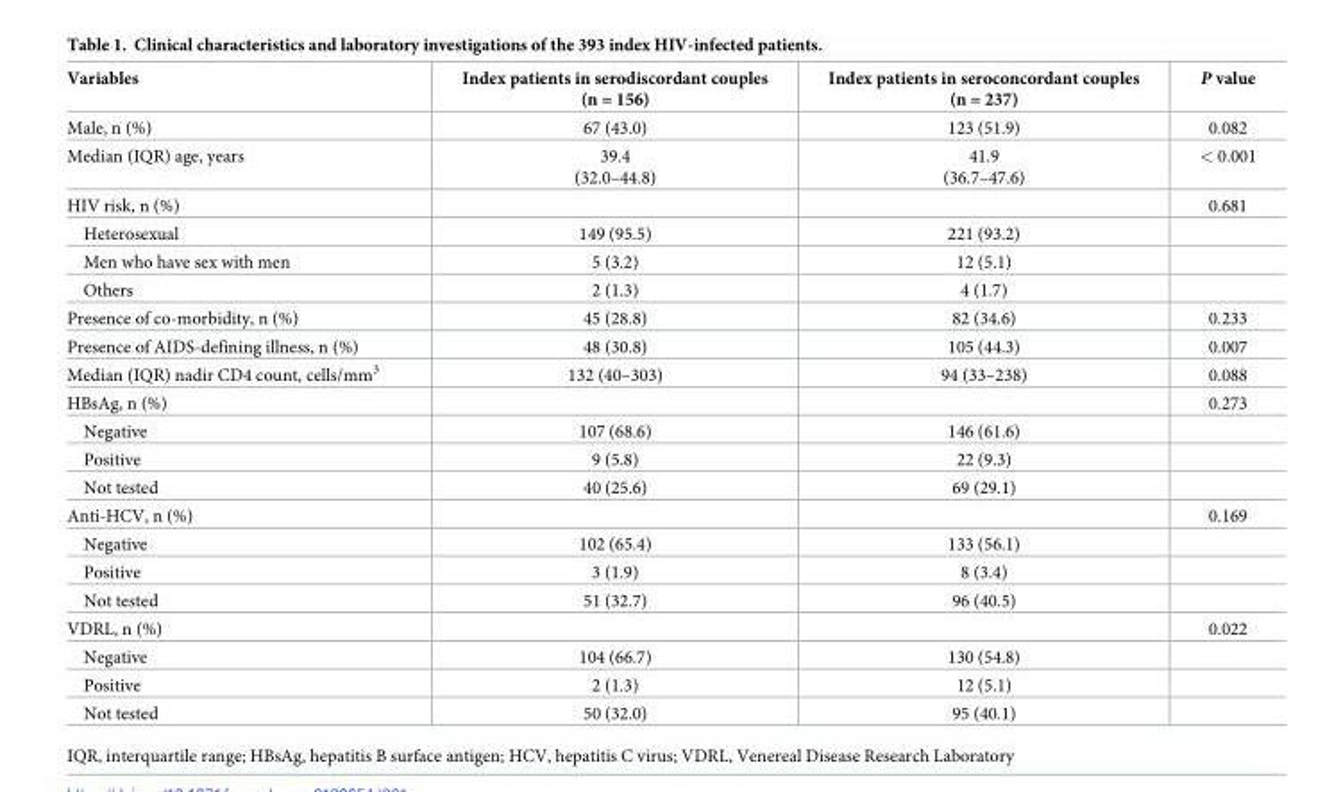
<table><thead><tr><td>Variables</td><td>Index patients in serodiscordant couples (n = 156)</td><td>Index patients in seroconcordant couples (n = 237)</td><td>P value</td></tr></thead><tbody><tr><td>Male, n (%)</td><td>67 (43.0)</td><td>123 (51.9)</td><td>0.082</td></tr><tr><td>Median (IQR) age, years</td><td>39.4 (32.0–44.8)</td><td>41.9 (36.7–47.6)</td><td>&lt; 0.001</td></tr><tr><td>HIV risk, n (%)</td><td></td><td></td><td>0.681</td></tr><tr><td>Heterosexual</td><td>149 (95.5)</td><td>221 (93.2)</td><td></td></tr><tr><td>Men who have sex with men</td><td>5 (3.2)</td><td>12 (5.1)</td><td></td></tr><tr><td>Others</td><td>2 (1.3)</td><td>4 (1.7)</td><td></td></tr><tr><td>Presence of co-morbidity, n (%)</td><td>45 (28.8)</td><td>82 (34.6)</td><td>0.233</td></tr><tr><td>Presence of AIDS-defining illness, n (%)</td><td>48 (30.8)</td><td>105 (44.3)</td><td>0.007</td></tr><tr><td>Median (IQR) nadir CD4 count, cells/mm<sup>3</sup></td><td>132 (40–303)</td><td>94 (33–238)</td><td>0.088</td></tr><tr><td>HBsAg, n (%)</td><td></td><td></td><td>0.273</td></tr><tr><td>Negative</td><td>107 (68.6)</td><td>146 (61.6)</td><td></td></tr><tr><td>Positive</td><td>9 (5.8)</td><td>22 (9.3)</td><td></td></tr><tr><td>Not tested</td><td>40 (25.6)</td><td>69 (29.1)</td><td></td></tr><tr><td>Anti-HCV, n (%)</td><td></td><td></td><td>0.169</td></tr><tr><td>Negative</td><td>102 (65.4)</td><td>133 (56.1)</td><td></td></tr><tr><td>Positive</td><td>3 (1.9)</td><td>8 (3.4)</td><td></td></tr><tr><td>Not tested</td><td>51 (32.7)</td><td>96 (40.5)</td><td></td></tr><tr><td>VDRL, n (%)</td><td></td><td></td><td>0.022</td></tr><tr><td>Negative</td><td>104 (66.7)</td><td>130 (54.8)</td><td></td></tr><tr><td>Positive</td><td>2 (1.3)</td><td>12 (5.1)</td><td></td></tr><tr><td>Not tested</td><td>50 (32.0)</td><td>95 (40.1)</td><td></td></tr></tbody></table>